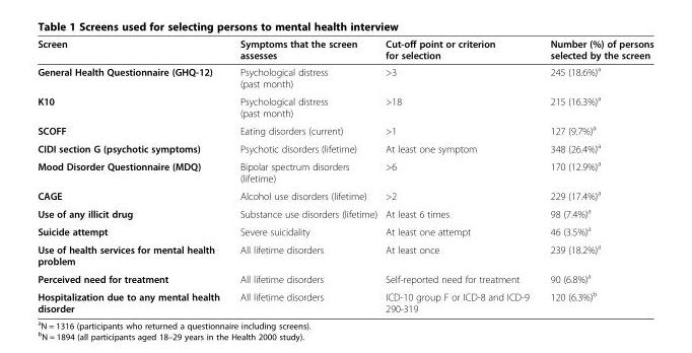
<table><thead><tr><td>Screen</td><td>Symptoms that the screen assesses</td><td>Cut-off point or criterion for selection</td><td>Number (%) of persons selected by the screen</td></tr></thead><tbody><tr><td>General Health Questionnaire (GHQ-12)</td><td>Psychological distress (past month)</td><td>&gt;3</td><td>245 (18.6%)<sup>a</sup></td></tr><tr><td>K10</td><td>Psychological distress (past month)</td><td>&gt;18</td><td>215 (16.3%)<sup>a</sup></td></tr><tr><td>SCOFF</td><td>Eating disorders (current)</td><td>&gt;1</td><td>127 (9.7%)<sup>a</sup></td></tr><tr><td>CIDI section G (psychotic symptoms)</td><td>Psychotic disorders (lifetime)</td><td>At least one symptom</td><td>348 (26.4%)<sup>a</sup></td></tr><tr><td>Mood Disorder Questionnaire (MDQ)</td><td>Bipolar spectrum disorders (lifetime)</td><td>&gt;6</td><td>170 (12.9%)<sup>a</sup></td></tr><tr><td>CAGE</td><td>Alcohol use disorders (lifetime)</td><td>&gt;2</td><td>229 (17.4%)<sup>a</sup></td></tr><tr><td>Use of any illicit drug</td><td>Substance use disorders (lifetime)</td><td>At least 6 times</td><td>98 (7.4%)<sup>a</sup></td></tr><tr><td>Suicide attempt</td><td>Severe suicidality</td><td>At least one attempt</td><td>46 (3.5%)<sup>a</sup></td></tr><tr><td>Use of health services for mental health problem</td><td>All lifetime disorders</td><td>At least once</td><td>239 (18.2%)<sup>a</sup></td></tr><tr><td>Perceived need for treatment</td><td>All lifetime disorders</td><td>Self-reported need for treatment</td><td>90 (6.8%)<sup>a</sup></td></tr><tr><td>Hospitalization due to any mental health disorder</td><td>All lifetime disorders</td><td>ICD-10 group F or ICD-8 and ICD-9 290-319</td><td>120 (6.3%)<sup>b</sup></td></tr></tbody></table>